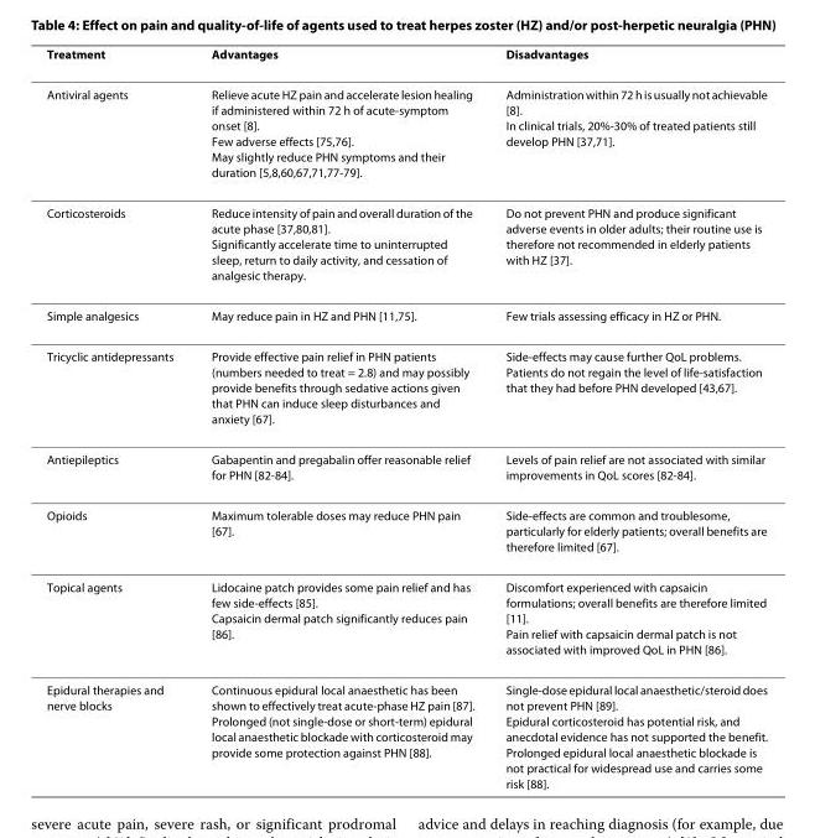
<table><thead><tr><td>Treatment</td><td>Advantages</td><td>Disadvantages</td></tr></thead><tbody><tr><td>Antiviral agents</td><td>Relieve acute HZ pain and accelerate lesion healing if administered within 72 h of acute-symptom onset [8]. Few adverse effects [75,76]. May slightly reduce PHN symptoms and their duration [5,8,60,67,71,77-79].</td><td>Administration within 72 h is usually not achievable [8]. In clinical trials, 20%-30% of treated patients still develop PHN [37,71].</td></tr><tr><td>Corticosteroids</td><td>Reduce intensity of pain and overall duration of the acute phase [37,80,81]. Significantly accelerate time to uninterrupted sleep, return to daily activity, and cessation of analgesic therapy.</td><td>Do not prevent PHN and produce significant adverse events in older adults; their routine use is therefore not recommended in elderly patients with HZ [37].</td></tr><tr><td>Simple analgesics</td><td>May reduce pain in HZ and PHN [11,75].</td><td>Few trials assessing efficacy in HZ or PHN.</td></tr><tr><td>Tricyclic antidepressants</td><td>Provide effective pain relief in PHN patients (numbers needed to treat = 2.8) and may possibly provide benefits through sedative actions given that PHN can induce sleep disturbances and anxiety [67].</td><td>Side-effects may cause further QoL problems. Patients do not regain the level of life-satisfaction that they had before PHN developed [43,67].</td></tr><tr><td>Antiepileptics</td><td>Gabapentin and pregabalin offer reasonable relief for PHN [82-84].</td><td>Levels of pain relief are not associated with similar improvements in QoL scores [82-84].</td></tr><tr><td>Opioids</td><td>Maximum tolerable doses may reduce PHN pain [67].</td><td>Side-effects are common and troublesome, particularly for elderly patients; overall benefits are therefore limited [67].</td></tr><tr><td>Topical agents</td><td>Lidocaine patch provides some pain relief and has few side-effects [85]. Capsaicin dermal patch significantly reduces pain [86].</td><td>Discomfort experienced with capsaicin formulations; overall benefits are therefore limited [11]. Pain relief with capsaicin dermal patch is not associated with improved QoL in PHN [86].</td></tr><tr><td>Epidural therapies and nerve blocks</td><td>Continuous epidural local anaesthetic has been shown to effectively treat acute-phase HZ pain [87]. Prolonged (not single-dose or short-term) epidural local anaesthetic blockade with corticosteroid may provide some protection against PHN [88].</td><td>Single-dose epidural local anaesthetic/steroid does not prevent PHN [89]. Epidural corticosteroid has potential risk, and anecdotal evidence has not supported the benefit. Prolonged epidural local anaesthetic blockade is not practical for widespread use and carries some risk [88].</td></tr></tbody></table>